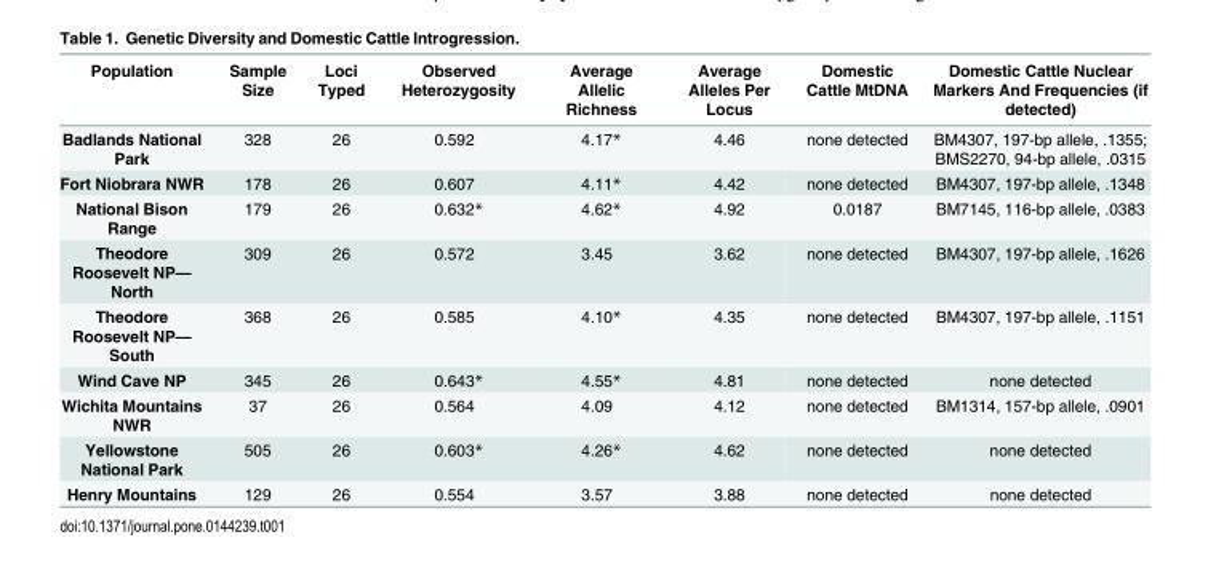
<table><thead><tr><td>Population</td><td>Sample Size</td><td>Loci Typed</td><td>Observed Heterozygosity</td><td>Average Allelic Richness</td><td>Average Alleles Per Locus</td><td>Domestic Cattle MtDNA</td><td>Domestic Cattle Nuclear Markers And Frequencies (if detected)</td></tr></thead><tbody><tr><td>Badlands National Park</td><td>328</td><td>26</td><td>0.592</td><td>4.17*</td><td>4.46</td><td>none detected</td><td>BM4307, 197-bp allele, .1355; BMS2270, 94-bp allele, .0315</td></tr><tr><td>Fort Niobrara NWR</td><td>178</td><td>26</td><td>0.607</td><td>4.11*</td><td>4.42</td><td>none detected</td><td>BM4307, 197-bp allele, .1348</td></tr><tr><td>National Bison Range</td><td>179</td><td>26</td><td>0.632*</td><td>4.62*</td><td>4.92</td><td>0.0187</td><td>BM7145, 116-bp allele, .0383</td></tr><tr><td>Theodore Roosevelt NP— North</td><td>309</td><td>26</td><td>0.572</td><td>3.45</td><td>3.62</td><td>none detected</td><td>BM4307, 197-bp allele, .1626</td></tr><tr><td>Theodore Roosevelt NP— South</td><td>368</td><td>26</td><td>0.585</td><td>4.10*</td><td>4.35</td><td>none detected</td><td>BM4307, 197-bp allele, .1151</td></tr><tr><td>Wind Cave NP</td><td>345</td><td>26</td><td>0.643*</td><td>4.55*</td><td>4.81</td><td>none detected</td><td>none detected</td></tr><tr><td>Wichita Mountains NWR</td><td>37</td><td>26</td><td>0.564</td><td>4.09</td><td>4.12</td><td>none detected</td><td>BM1314, 157-bp allele, .0901</td></tr><tr><td>Yellowstone National Park</td><td>505</td><td>26</td><td>0.603*</td><td>4.26*</td><td>4.62</td><td>none detected</td><td>none detected</td></tr><tr><td>Henry Mountains</td><td>129</td><td>26</td><td>0.554</td><td>3.57</td><td>3.88</td><td>none detected</td><td>none detected</td></tr></tbody></table>